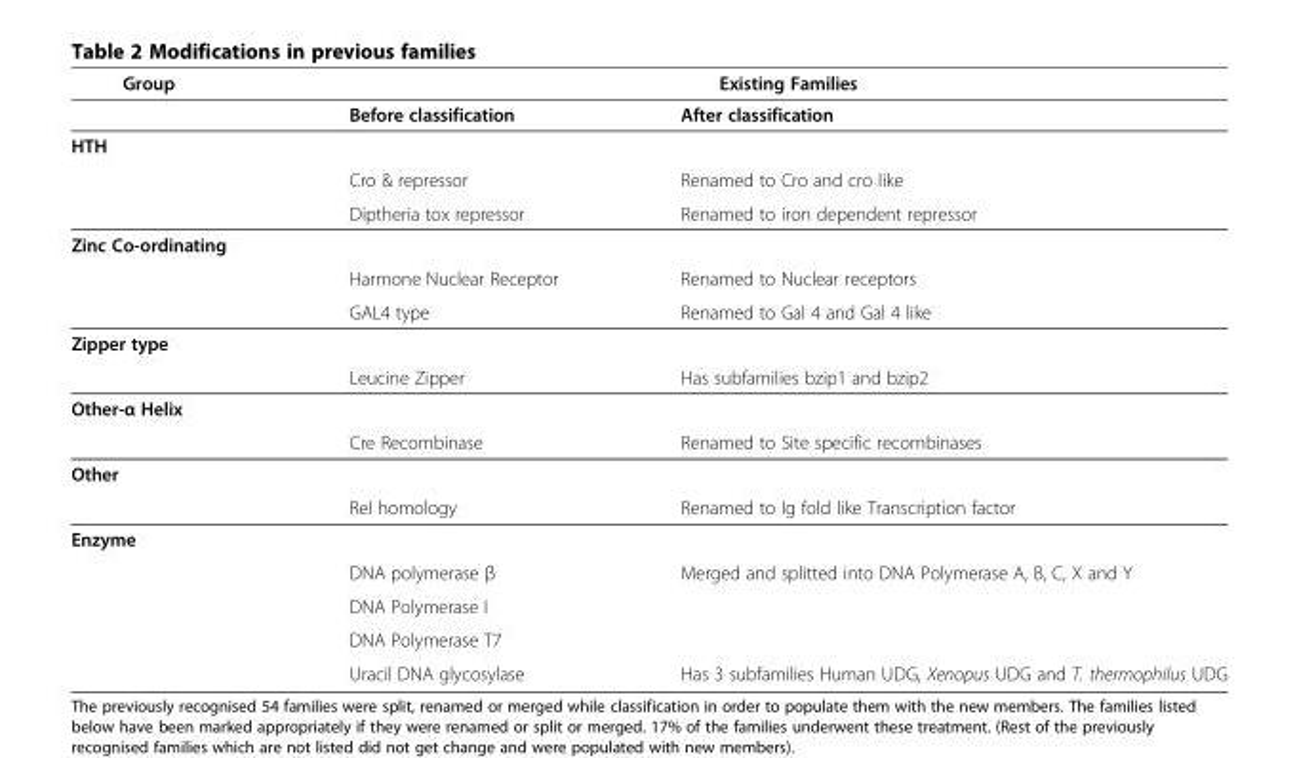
<table><thead><tr><td rowspan="2">Group</td><td colspan="2">Existing Families</td></tr><tr><td>Before classification</td><td>After classification</td></tr></thead><tbody><tr><td colspan="3">HTH</td></tr><tr><td></td><td>Cro &amp; repressor</td><td>Renamed to Cro and cro like</td></tr><tr><td></td><td>Diptheria tox repressor</td><td>Renamed to iron dependent repressor</td></tr><tr><td colspan="3">Zinc Co-ordinating</td></tr><tr><td></td><td>Harmone Nuclear Receptor</td><td>Renamed to Nuclear receptors</td></tr><tr><td></td><td>GAL4 type</td><td>Renamed to Gal 4 and Gal 4 like</td></tr><tr><td colspan="3">Zipper type</td></tr><tr><td></td><td>Leucine Zipper</td><td>Has subfamilies bzip1 and bzip2</td></tr><tr><td colspan="3">Other-α Helix</td></tr><tr><td></td><td>Cre Recombinase</td><td>Renamed to Site specific recombinases</td></tr><tr><td colspan="3">Other</td></tr><tr><td></td><td>ReI homology</td><td>Renamed to Ig fold like Transcription factor</td></tr><tr><td colspan="3">Enzyme</td></tr><tr><td></td><td>DNA polymerase β</td><td rowspan="3">Merged and splitted into DNA Polymerase A, B, C, X and Y</td></tr><tr><td></td><td>DNA Polymerase I</td></tr><tr><td></td><td>DNA Polymerase T7</td></tr><tr><td></td><td>Uracil DNA glycosylase</td><td>Has 3 subfamilies Human UDG, Xenopus UDG and T. thermophilus UDG</td></tr></tbody></table>